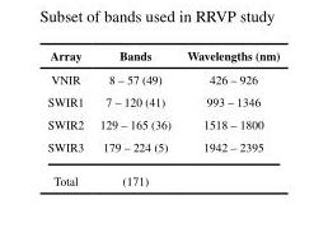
<table><thead><tr><td>Array</td><td>Bands</td><td>Wavelengths (nm)</td></tr></thead><tbody><tr><td>VNIR</td><td>8 – 57 (49)</td><td>426 – 926</td></tr><tr><td>SWIR1</td><td>7 – 120 (41)</td><td>993 – 1346</td></tr><tr><td>SWIR2</td><td>129 – 165 (36)</td><td>1518 – 1800</td></tr><tr><td>SWIR3</td><td>179 – 224 (5)</td><td>1942 – 2395</td></tr><tr><td>Total</td><td>(171)</td><td></td></tr></tbody></table>